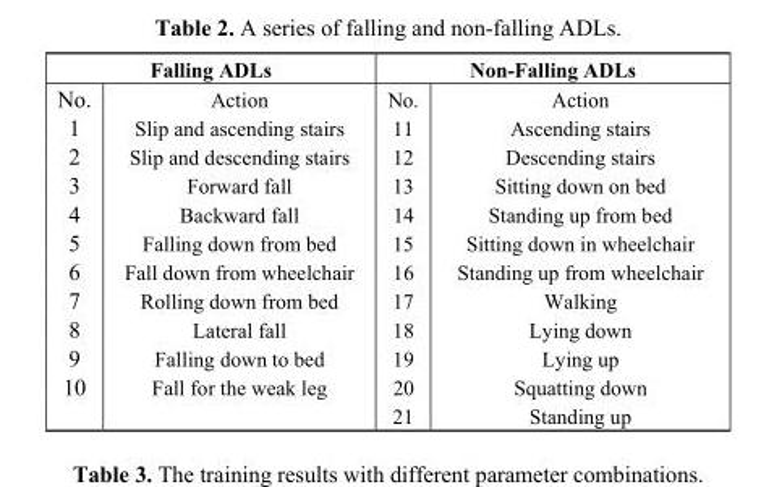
<table><thead><tr><td colspan="2">Falling ADLs</td><td colspan="2">Non-Falling ADLs</td></tr><tr><td>No.</td><td>Action</td><td>No.</td><td>Action</td></tr></thead><tbody><tr><td>1</td><td>Slip and ascending stairs</td><td>11</td><td>Ascending stairs</td></tr><tr><td>2</td><td>Slip and descending stairs</td><td>12</td><td>Descending stairs</td></tr><tr><td>3</td><td>Forward fall</td><td>13</td><td>Sitting down on bed</td></tr><tr><td>4</td><td>Backward fall</td><td>14</td><td>Standing up from bed</td></tr><tr><td>5</td><td>Falling down from bed</td><td>15</td><td>Sitting down in wheelchair</td></tr><tr><td>6</td><td>Fall down from wheelchair</td><td>16</td><td>Standing up from wheelchair</td></tr><tr><td>7</td><td>Rolling down from bed</td><td>17</td><td>Walking</td></tr><tr><td>8</td><td>Lateral fall</td><td>18</td><td>Lying down</td></tr><tr><td>9</td><td>Falling down to bed</td><td>19</td><td>Lying up</td></tr><tr><td rowspan="2">10</td><td>Fall for the weak leg</td><td>20</td><td>Squatting down</td></tr><tr><td></td><td>21</td><td>Standing up</td></tr></tbody></table>